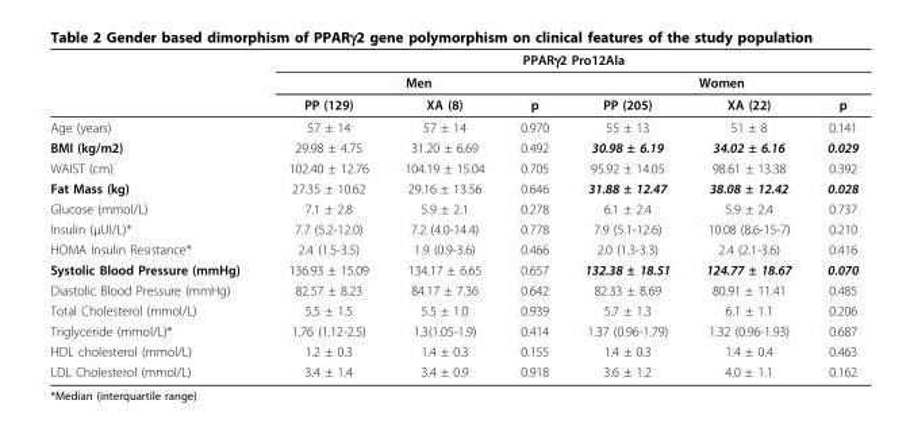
<table><thead><tr><td rowspan="3"></td><td colspan="6">PPARγ2 Pro12Ala</td></tr><tr><td colspan="3">Men</td><td colspan="3">Women</td></tr><tr><td>PP (129)</td><td>XA (8)</td><td>p</td><td>PP (205)</td><td>XA (22)</td><td>p</td></tr></thead><tbody><tr><td>Age (years)</td><td>57 ± 14</td><td>57 ± 14</td><td>0.970</td><td>55 ± 13</td><td>51 ± 8</td><td>0.141</td></tr><tr><td>BMI (kg/m2)</td><td>29.98 ± 4.75</td><td>31.20 ± 6.69</td><td>0.492</td><td>30.98 ± 6.19</td><td>34.02 ± 6.16</td><td>0.029</td></tr><tr><td>WAIST (cm)</td><td>102.40 ± 12.76</td><td>104.19 ± 15.04</td><td>0.705</td><td>95.92 ± 14.05</td><td>98.61 ± 13.38</td><td>0.392</td></tr><tr><td>Fat Mass (kg)</td><td>27.35 ± 10.62</td><td>29.16 ± 13.56</td><td>0.646</td><td>31.88 ± 12.47</td><td>38.08 ± 12.42</td><td>0.028</td></tr><tr><td>Glucose (mmol/L)</td><td>7.1 ± 2.8</td><td>5.9 ± 2.1</td><td>0.278</td><td>6.1 ± 2.4</td><td>5.9 ± 2.4</td><td>0.737</td></tr><tr><td>Insulin (μUI/L)*</td><td>7.7 (5.2-12.0)</td><td>7.2 (4.0-14.4)</td><td>0.778</td><td>7.9 (5.1-12.6)</td><td>10.08 (8.6-15-7)</td><td>0.210</td></tr><tr><td>HOMA Insulin Resistance*</td><td>2.4 (1.5-3.5)</td><td>1.9 (0.9-3.6)</td><td>0.466</td><td>2.0 (1.3-3.3)</td><td>2.4 (2.1-3.6)</td><td>0.416</td></tr><tr><td>Systolic Blood Pressure (mmHg)</td><td>136.93 ± 15.09</td><td>134.17 ± 6.65</td><td>0.657</td><td>132.38 ± 18.51</td><td>124.77 ± 18.67</td><td>0.070</td></tr><tr><td>Diastolic Blood Pressure (mmHg)</td><td>82.57 ± 8.23</td><td>84.17 ± 7.36</td><td>0.642</td><td>82.33 ± 8.69</td><td>80.91 ± 11.41</td><td>0.485</td></tr><tr><td>Total Cholesterol (mmol/L)</td><td>5.5 ± 1.5</td><td>5.5 ± 1.0</td><td>0.939</td><td>5.7 ± 1.3</td><td>6.1 ± 1.1</td><td>0.206</td></tr><tr><td>Triglyceride (mmol/L)*</td><td>1.76 (1.12-2.5)</td><td>1.3(1.05-1.9)</td><td>0.414</td><td>1.37 (0.96-1.79)</td><td>1.32 (0.96-1.93)</td><td>0.687</td></tr><tr><td>HDL cholesterol (mmol/L)</td><td>1.2 ± 0.3</td><td>1.4 ± 0.3</td><td>0.155</td><td>1.4 ± 0.3</td><td>1.4 ± 0.4</td><td>0.463</td></tr><tr><td>LDL Cholesterol (mmol/L)</td><td>3.4 ± 1.4</td><td>3.4 ± 0.9</td><td>0.918</td><td>3.6 ± 1.2</td><td>4.0 ± 1.1</td><td>0.162</td></tr></tbody></table>